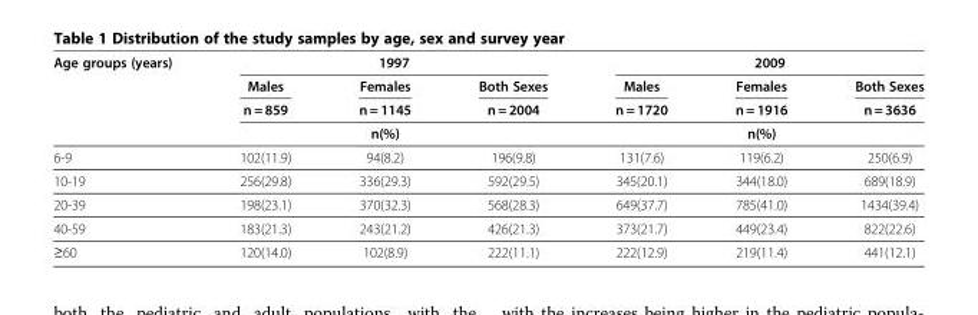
<table><thead><tr><td rowspan="4">Age groups (years)</td><td colspan="3">1997</td><td colspan="3">2009</td></tr><tr><td rowspan="3">Males n = 859</td><td rowspan="3">Females n = 1145 n(%)</td><td rowspan="3">Both Sexes n = 2004</td><td rowspan="3">Males n = 1720</td><td rowspan="3">Females n = 1916 n(%)</td><td rowspan="3">Both Sexes n = 3636</td></tr><tr></tr><tr></tr></thead><tbody><tr><td>6-9</td><td>102(11.9)</td><td>94(8.2)</td><td>196(9.8)</td><td>131(7.6)</td><td>119(6.2)</td><td>250(6.9)</td></tr><tr><td>10-19</td><td>256(29.8)</td><td>336(29.3)</td><td>592(29.5)</td><td>345(20.1)</td><td>344(18.0)</td><td>689(18.9)</td></tr><tr><td>20-39</td><td>198(23.1)</td><td>370(32.3)</td><td>568(28.3)</td><td>649(37.7)</td><td>785(41.0)</td><td>1434(39.4)</td></tr><tr><td>40-59</td><td>183(21.3)</td><td>243(21.2)</td><td>426(21.3)</td><td>373(21.7)</td><td>449(23.4)</td><td>822(22.6)</td></tr><tr><td>≥60</td><td>120(14.0)</td><td>102(8.9)</td><td>222(11.1)</td><td>222(12.9)</td><td>219(11.4)</td><td>441(12.1)</td></tr></tbody></table>